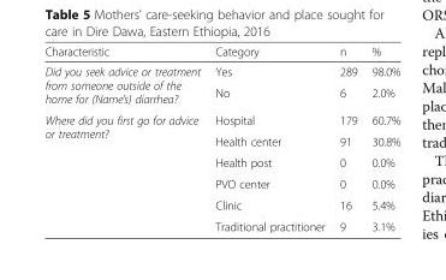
<table><thead><tr><td>Characteristic</td><td>Category</td><td>n</td><td>%</td></tr></thead><tbody><tr><td rowspan="2">Did you seek advice or treatment from someone outside of the home for (Name’s) diarrhea?</td><td>Yes</td><td>289</td><td>98.0%</td></tr><tr><td>No</td><td>6</td><td>2.0%</td></tr><tr><td rowspan="6">Where did you first go for advice or treatment?</td><td>Hospital</td><td>179</td><td>60.7%</td></tr><tr><td>Health center</td><td>91</td><td>30.8%</td></tr><tr><td>Health post</td><td>0</td><td>0.0%</td></tr><tr><td>PVO center</td><td>0</td><td>0.0%</td></tr><tr><td>Clinic</td><td>16</td><td>5.4%</td></tr><tr><td>Traditional practitioner</td><td>9</td><td>3.1%</td></tr></tbody></table>